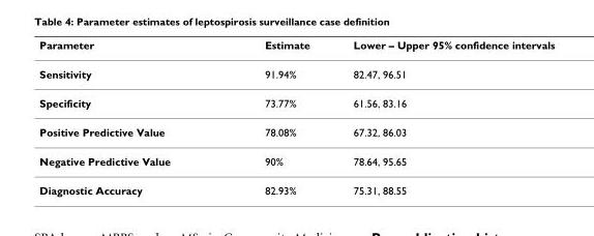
<table><thead><tr><td>Parameter</td><td>Estimate</td><td>Lower – Upper 95% confidence intervals</td></tr></thead><tbody><tr><td>Sensitivity</td><td>91.94%</td><td>82.47, 96.51</td></tr><tr><td>Specificity</td><td>73.77%</td><td>61.56, 83.16</td></tr><tr><td>Positive Predictive Value</td><td>78.08%</td><td>67.32, 86.03</td></tr><tr><td>Negative Predictive Value</td><td>90%</td><td>78.64, 95.65</td></tr><tr><td>Diagnostic Accuracy</td><td>82.93%</td><td>75.31, 88.55</td></tr></tbody></table>